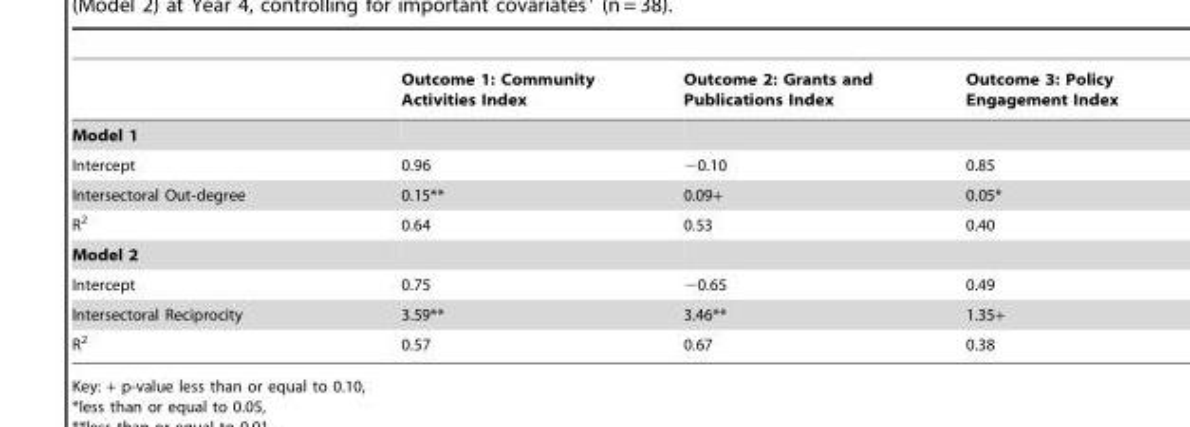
<table><thead><tr><td></td><td>Outcome 1: Community Activities Index</td><td>Outcome 2: Grants and Publications Index</td><td>Outcome 3: Policy Engagement Index</td></tr></thead><tbody><tr><td colspan="4">Model 1</td></tr><tr><td>Intercept</td><td>0.96</td><td>−0.10</td><td>0.85</td></tr><tr><td>Intersectoral Out-degree</td><td>0.15**</td><td>0.09+</td><td>0.05*</td></tr><tr><td>R<sup>2</sup></td><td>0.64</td><td>0.53</td><td>0.40</td></tr><tr><td colspan="4">Model 2</td></tr><tr><td>Intercept</td><td>0.75</td><td>−0.65</td><td>0.49</td></tr><tr><td>Intersectoral Reciprocity</td><td>3.59**</td><td>3.46**</td><td>1.35+</td></tr><tr><td>R<sup>2</sup></td><td>0.57</td><td>0.67</td><td>0.38</td></tr></tbody></table>